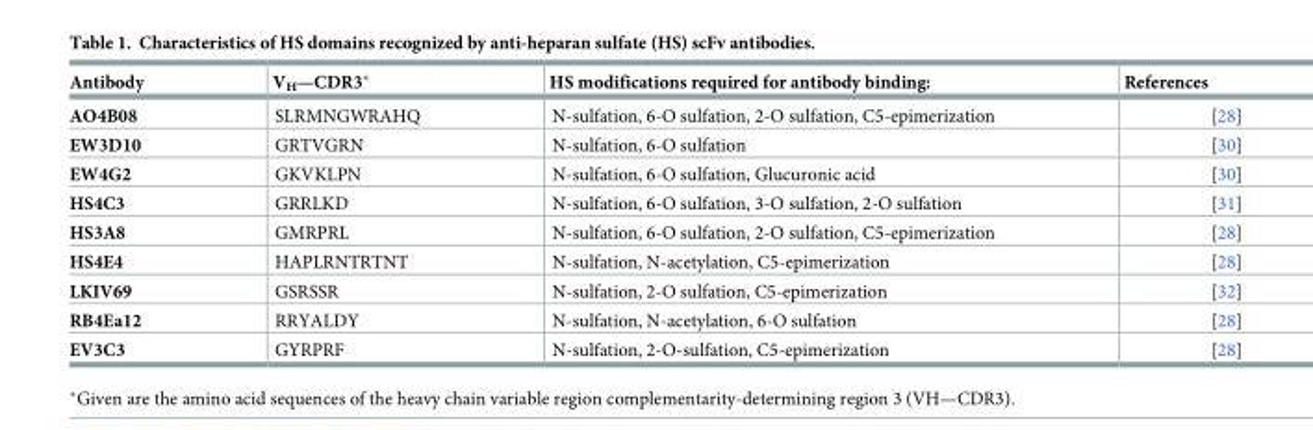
<table><thead><tr><td>Antibody</td><td>V<sub>H</sub>—CDR3*</td><td>HS modifications required for antibody binding:</td><td>References</td></tr></thead><tbody><tr><td>AO4B08</td><td>SLRMNGWRAHQ</td><td>N-sulfation, 6-O sulfation, 2-O sulfation, C5-epimerization</td><td>[28]</td></tr><tr><td>EW3D10</td><td>GRTVGRN</td><td>N-sulfation, 6-O sulfation</td><td>[30]</td></tr><tr><td>EW4G2</td><td>GKVKLPN</td><td>N-sulfation, 6-O sulfation, Glucuronic acid</td><td>[30]</td></tr><tr><td>HS4C3</td><td>GRRLKD</td><td>N-sulfation, 6-O sulfation, 3-O sulfation, 2-O sulfation</td><td>[31]</td></tr><tr><td>HS3A8</td><td>GMRPRL</td><td>N-sulfation, 6-O sulfation, 2-O sulfation, C5-epimerization</td><td>[28]</td></tr><tr><td>HS4E4</td><td>HAPLRNTRTNT</td><td>N-sulfation, N-acetylation, C5-epimerization</td><td>[28]</td></tr><tr><td>LKIV69</td><td>GSRSSR</td><td>N-sulfation, 2-O sulfation, C5-epimerization</td><td>[32]</td></tr><tr><td>RB4Ea12</td><td>RRYALDY</td><td>N-sulfation, N-acetylation, 6-O sulfation</td><td>[28]</td></tr><tr><td>EV3C3</td><td>GYRPRF</td><td>N-sulfation, 2-O-sulfation, C5-epimerization</td><td>[28]</td></tr></tbody></table>